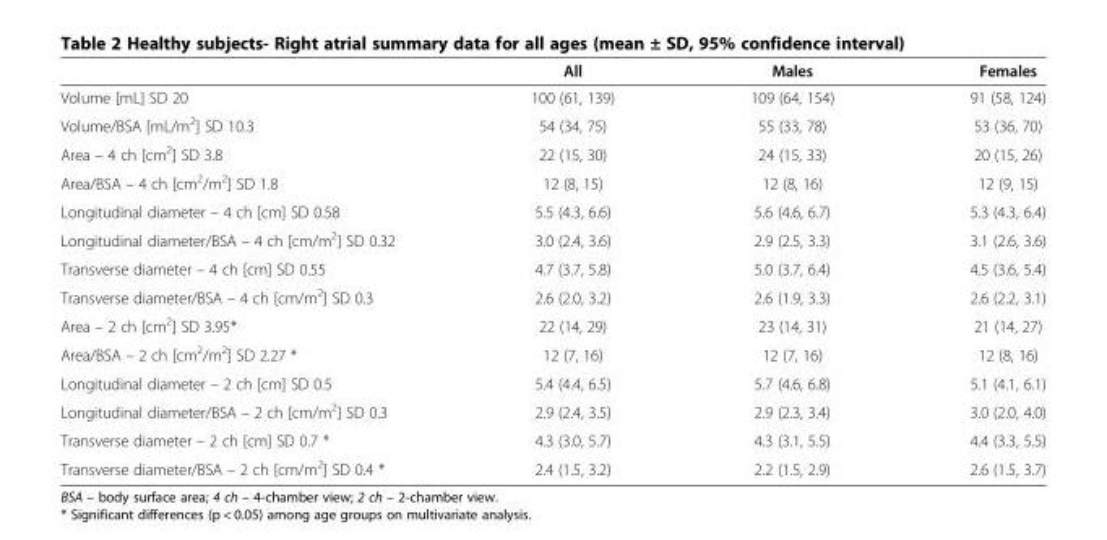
<table><thead><tr><td></td><td>All</td><td>Males</td><td>Females</td></tr></thead><tbody><tr><td>Volume [mL] SD 20</td><td>100 (61, 139)</td><td>109 (64, 154)</td><td>91 (58, 124)</td></tr><tr><td>Volume/BSA [mL/m<sup>2</sup>] SD 10.3</td><td>54 (34, 75)</td><td>55 (33, 78)</td><td>53 (36, 70)</td></tr><tr><td>Area – 4 ch [cm<sup>2</sup>] SD 3.8</td><td>22 (15, 30)</td><td>24 (15, 33)</td><td>20 (15, 26)</td></tr><tr><td>Area/BSA – 4 ch [cm<sup>2</sup>/m<sup>2</sup>] SD 1.8</td><td>12 (8, 15)</td><td>12 (8, 16)</td><td>12 (9, 15)</td></tr><tr><td>Longitudinal diameter – 4 ch [cm] SD 0.58</td><td>5.5 (4.3, 6.6)</td><td>5.6 (4.6, 6.7)</td><td>5.3 (4.3, 6.4)</td></tr><tr><td>Longitudinal diameter/BSA – 4 ch [cm/m<sup>2</sup>] SD 0.32</td><td>3.0 (2.4, 3.6)</td><td>2.9 (2.5, 3.3)</td><td>3.1 (2.6, 3.6)</td></tr><tr><td>Transverse diameter – 4 ch [cm] SD 0.55</td><td>4.7 (3.7, 5.8)</td><td>5.0 (3.7, 6.4)</td><td>4.5 (3.6, 5.4)</td></tr><tr><td>Transverse diameter/BSA – 4 ch [cm/m<sup>2</sup>] SD 0.3</td><td>2.6 (2.0, 3.2)</td><td>2.6 (1.9, 3.3)</td><td>2.6 (2.2, 3.1)</td></tr><tr><td>Area – 2 ch [cm<sup>2</sup>] SD 3.95*</td><td>22 (14, 29)</td><td>23 (14, 31)</td><td>21 (14, 27)</td></tr><tr><td>Area/BSA – 2 ch [cm<sup>2</sup>/m<sup>2</sup>] SD 2.27 *</td><td>12 (7, 16)</td><td>12 (7, 16)</td><td>12 (8, 16)</td></tr><tr><td>Longitudinal diameter – 2 ch [cm] SD 0.5</td><td>5.4 (4.4, 6.5)</td><td>5.7 (4.6, 6.8)</td><td>5.1 (4.1, 6.1)</td></tr><tr><td>Longitudinal diameter/BSA – 2 ch [cm/m<sup>2</sup>] SD 0.3</td><td>2.9 (2.4, 3.5)</td><td>2.9 (2.3, 3.4)</td><td>3.0 (2.0, 4.0)</td></tr><tr><td>Transverse diameter – 2 ch [cm] SD 0.7 *</td><td>4.3 (3.0, 5.7)</td><td>4.3 (3.1, 5.5)</td><td>4.4 (3.3, 5.5)</td></tr><tr><td>Transverse diameter/BSA – 2 ch [cm/m<sup>2</sup>] SD 0.4 *</td><td>2.4 (1.5, 3.2)</td><td>2.2 (1.5, 2.9)</td><td>2.6 (1.5, 3.7)</td></tr></tbody></table>